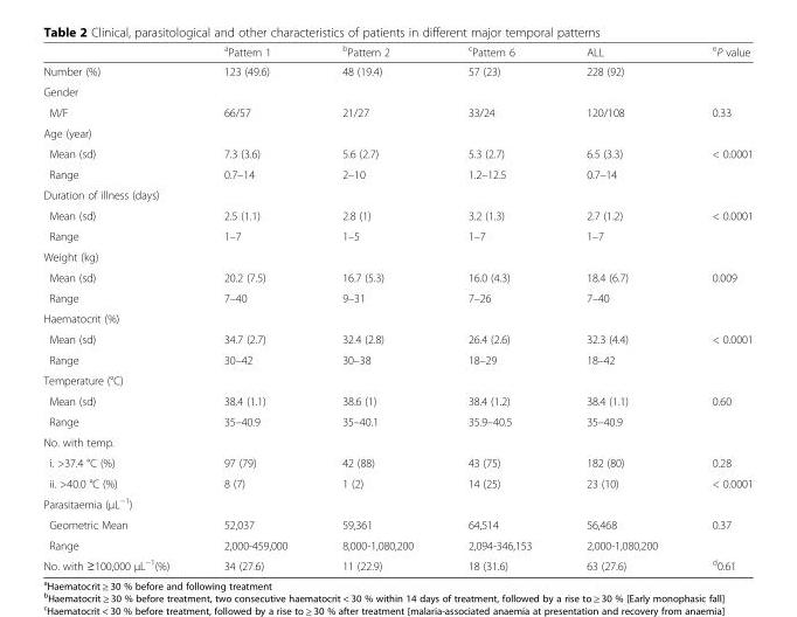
<table><thead><tr><td></td><td><sup>a</sup>Pattern 1</td><td><sup>b</sup>Pattern 2</td><td><sup>c</sup>Pattern 6</td><td>ALL</td><td><sup>e</sup>P value</td></tr></thead><tbody><tr><td>Number (%)</td><td>123 (49.6)</td><td>48 (19.4)</td><td>57 (23)</td><td>228 (92)</td><td></td></tr><tr><td colspan="6">Gender</td></tr><tr><td>M/F</td><td>66/57</td><td>21/27</td><td>33/24</td><td>120/108</td><td>0.33</td></tr><tr><td colspan="6">Age (year)</td></tr><tr><td>Mean (sd)</td><td>7.3 (3.6)</td><td>5.6 (2.7)</td><td>5.3 (2.7)</td><td>6.5 (3.3)</td><td>&lt; 0.0001</td></tr><tr><td>Range</td><td>0.7–14</td><td>2–10</td><td>1.2–12.5</td><td>0.7–14</td><td></td></tr><tr><td colspan="6">Duration of illness (days)</td></tr><tr><td>Mean (sd)</td><td>2.5 (1.1)</td><td>2.8 (1)</td><td>3.2 (1.3)</td><td>2.7 (1.2)</td><td>&lt; 0.0001</td></tr><tr><td>Range</td><td>1–7</td><td>1–5</td><td>1–7</td><td>1–7</td><td></td></tr><tr><td colspan="6">Weight (kg)</td></tr><tr><td>Mean (sd)</td><td>20.2 (7.5)</td><td>16.7 (5.3)</td><td>16.0 (4.3)</td><td>18.4 (6.7)</td><td>0.009</td></tr><tr><td>Range</td><td>7–40</td><td>9–31</td><td>7–26</td><td>7–40</td><td></td></tr><tr><td colspan="6">Haematocrit (%)</td></tr><tr><td>Mean (sd)</td><td>34.7 (2.7)</td><td>32.4 (2.8)</td><td>26.4 (2.6)</td><td>32.3 (4.4)</td><td>&lt; 0.0001</td></tr><tr><td>Range</td><td>30–42</td><td>30–38</td><td>18–29</td><td>18–42</td><td></td></tr><tr><td colspan="6">Temperature (°C)</td></tr><tr><td>Mean (sd)</td><td>38.4 (1.1)</td><td>38.6 (1)</td><td>38.4 (1.2)</td><td>38.4 (1.1)</td><td>0.60</td></tr><tr><td>Range</td><td>35–40.9</td><td>35–40.1</td><td>35.9–40.5</td><td>35–40.9</td><td></td></tr><tr><td colspan="6">No. with temp.</td></tr><tr><td>i. &gt;37.4 °C (%)</td><td>97 (79)</td><td>42 (88)</td><td>43 (75)</td><td>182 (80)</td><td>0.28</td></tr><tr><td>ii. &gt;40.0 °C (%)</td><td>8 (7)</td><td>1 (2)</td><td>14 (25)</td><td>23 (10)</td><td>&lt; 0.0001</td></tr><tr><td colspan="6">Parasitaemia (μL<sup>−1</sup>)</td></tr><tr><td>Geometric Mean</td><td>52,037</td><td>59,361</td><td>64,514</td><td>56,468</td><td>0.37</td></tr><tr><td>Range</td><td>2,000-459,000</td><td>8,000-1,080,200</td><td>2,094-346,153</td><td>2,000-1,080,200</td><td></td></tr><tr><td>No. with ≥100,000 μL<sup>−1</sup>(%)</td><td>34 (27.6)</td><td>11 (22.9)</td><td>18 (31.6)</td><td>63 (27.6)</td><td><sup>d</sup>0.61</td></tr></tbody></table>